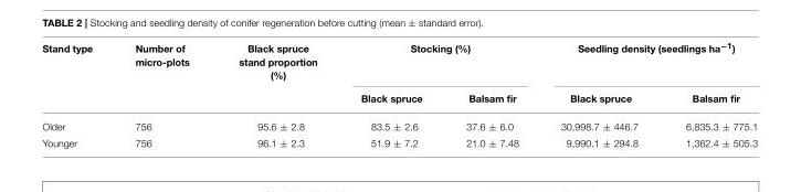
<table><thead><tr><td rowspan="2">Stand type</td><td rowspan="2">Number of micro-plots</td><td rowspan="2">Black spruce stand proportion (%)</td><td colspan="2">Stocking (%)</td><td colspan="2">Seedling density (seedlings ha<sup>−1</sup>)</td></tr><tr><td>Black spruce</td><td>Balsam fir</td><td>Black spruce</td><td>Balsam fir</td></tr></thead><tbody><tr><td>Older</td><td>756</td><td>95.6 ± 2.8</td><td>83.5 ± 2.6</td><td>37.6 ± 6.0</td><td>30,998.7 ± 446.7</td><td>6,835.3 ± 775.1</td></tr><tr><td>Younger</td><td>756</td><td>96.1 ± 2.3</td><td>51.9 ± 7.2</td><td>21.0 ± 7.48</td><td>9,990.1 ± 294.8</td><td>1,362.4 ± 505.3</td></tr></tbody></table>